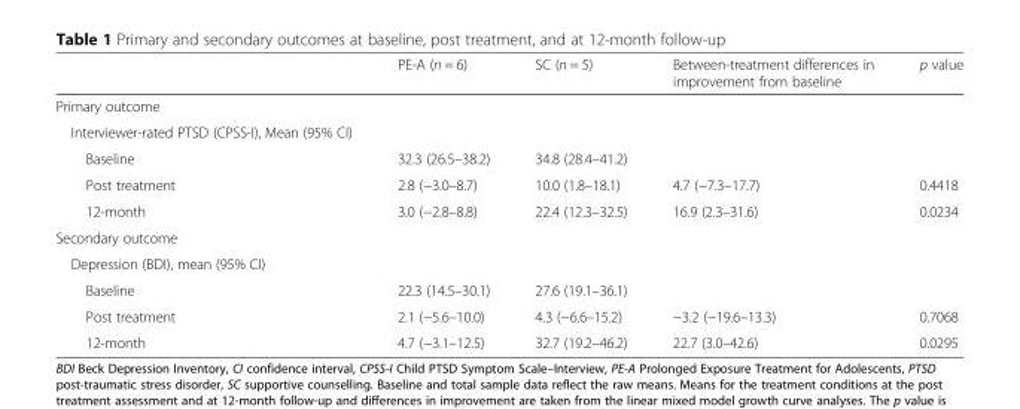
<table><thead><tr><td></td><td>PE-A (n = 6)</td><td>SC (n = 5)</td><td>Between-treatment differences in improvement from baseline</td><td>p value</td></tr></thead><tbody><tr><td colspan="5">Primary outcome</td></tr><tr><td colspan="5">Interviewer-rated PTSD (CPSS-I), Mean (95% CI)</td></tr><tr><td>Baseline</td><td>32.3 (26.5–38.2)</td><td>34.8 (28.4–41.2)</td><td></td><td></td></tr><tr><td>Post treatment</td><td>2.8 (−3.0–8.7)</td><td>10.0 (1.8–18.1)</td><td>4.7 (−7.3–17.7)</td><td>0.4418</td></tr><tr><td>12-month</td><td>3.0 (−2.8–8.8)</td><td>22.4 (12.3–32.5)</td><td>16.9 (2.3–31.6)</td><td>0.0234</td></tr><tr><td colspan="5">Secondary outcome</td></tr><tr><td colspan="5">Depression (BDI), mean (95% CI)</td></tr><tr><td>Baseline</td><td>22.3 (14.5–30.1)</td><td>27.6 (19.1–36.1)</td><td></td><td></td></tr><tr><td>Post treatment</td><td>2.1 (−5.6–10.0)</td><td>4.3 (−6.6–15.2)</td><td>−3.2 (−19.6–13.3)</td><td>0.7068</td></tr><tr><td>12-month</td><td>4.7 (−3.1–12.5)</td><td>32.7 (19.2–46.2)</td><td>22.7 (3.0–42.6)</td><td>0.0295</td></tr></tbody></table>